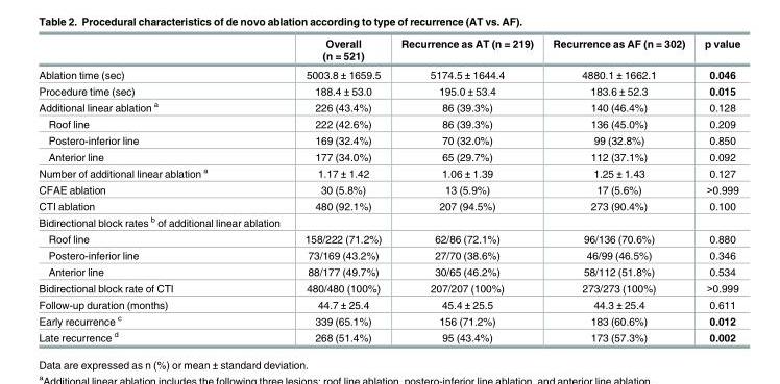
<table><thead><tr><td></td><td>Overall (n = 521)</td><td>Recurrence as AT (n = 219)</td><td>Recurrence as AF (n = 302)</td><td>p value</td></tr></thead><tbody><tr><td>Ablation time (sec)</td><td>5003.8 ± 1659.5</td><td>5174.5 ± 1644.4</td><td>4880.1 ± 1662.1</td><td>0.046</td></tr><tr><td>Procedure time (sec)</td><td>188.4 ± 53.0</td><td>195.0 ± 53.4</td><td>183.6 ± 52.3</td><td>0.015</td></tr><tr><td>Additional linear ablation <sup>a</sup></td><td>226 (43.4%)</td><td>86 (39.3%)</td><td>140 (46.4%)</td><td>0.128</td></tr><tr><td>Roof line</td><td>222 (42.6%)</td><td>86 (39.3%)</td><td>136 (45.0%)</td><td>0.209</td></tr><tr><td>Postero-inferior line</td><td>169 (32.4%)</td><td>70 (32.0%)</td><td>99 (32.8%)</td><td>0.850</td></tr><tr><td>Anterior line</td><td>177 (34.0%)</td><td>65 (29.7%)</td><td>112 (37.1%)</td><td>0.092</td></tr><tr><td>Number of additional linear ablation <sup>a</sup></td><td>1.17 ± 1.42</td><td>1.06 ± 1.39</td><td>1.25 ± 1.43</td><td>0.127</td></tr><tr><td>CFAE ablation</td><td>30 (5.8%)</td><td>13 (5.9%)</td><td>17 (5.6%)</td><td>&gt;0.999</td></tr><tr><td>CTI ablation</td><td>480 (92.1%)</td><td>207 (94.5%)</td><td>273 (90.4%)</td><td>0.100</td></tr><tr><td colspan="5">Bidirectional block rates <sup>b</sup> of additional linear ablation</td></tr><tr><td>Roof line</td><td>158/222 (71.2%)</td><td>62/86 (72.1%)</td><td>96/136 (70.6%)</td><td>0.880</td></tr><tr><td>Postero-inferior line</td><td>73/169 (43.2%)</td><td>27/70 (38.6%)</td><td>46/99 (46.5%)</td><td>0.346</td></tr><tr><td>Anterior line</td><td>88/177 (49.7%)</td><td>30/65 (46.2%)</td><td>58/112 (51.8%)</td><td>0.534</td></tr><tr><td>Bidirectional block rate of CTI</td><td>480/480 (100%)</td><td>207/207 (100%)</td><td>273/273 (100%)</td><td>&gt;0.999</td></tr><tr><td>Follow-up duration (months)</td><td>44.7 ± 25.4</td><td>45.4 ± 25.5</td><td>44.3 ± 25.4</td><td>0.611</td></tr><tr><td>Early recurrence <sup>c</sup></td><td>339 (65.1%)</td><td>156 (71.2%)</td><td>183 (60.6%)</td><td>0.012</td></tr><tr><td>Late recurrence <sup>d</sup></td><td>268 (51.4%)</td><td>95 (43.4%)</td><td>173 (57.3%)</td><td>0.002</td></tr></tbody></table>